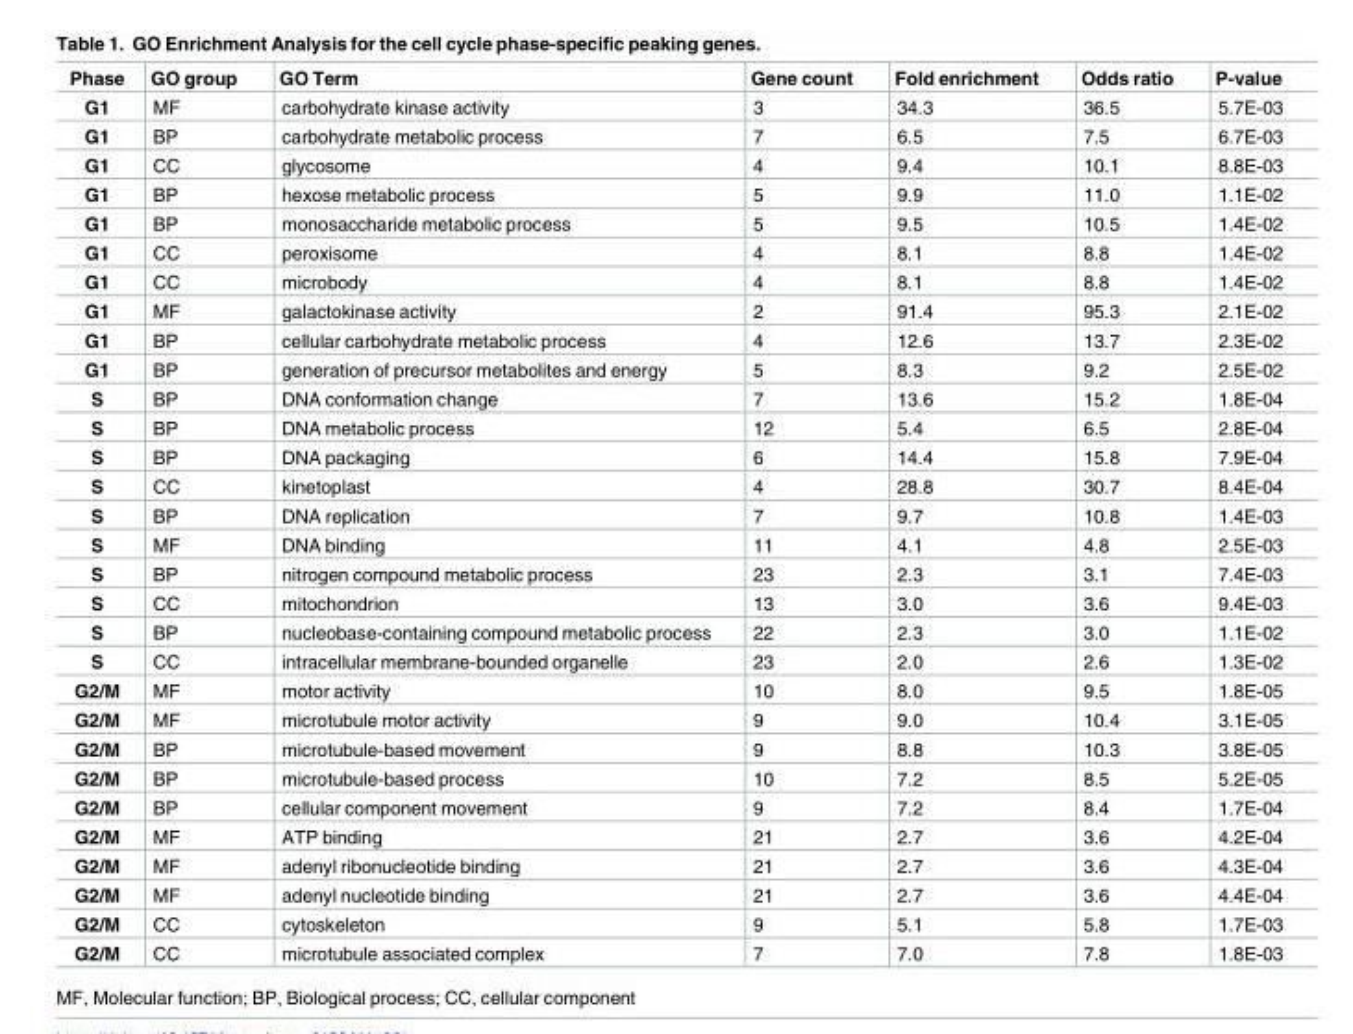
<table><thead><tr><td>Phase</td><td>GO group</td><td>GO Term</td><td>Gene count</td><td>Fold enrichment</td><td>Odds ratio</td><td>P-value</td></tr></thead><tbody><tr><td>G1</td><td>MF</td><td>carbohydrate kinase activity</td><td>3</td><td>34.3</td><td>36.5</td><td>5.7E-03</td></tr><tr><td>G1</td><td>BP</td><td>carbohydrate metabolic process</td><td>7</td><td>6.5</td><td>7.5</td><td>6.7E-03</td></tr><tr><td>G1</td><td>CC</td><td>glycosome</td><td>4</td><td>9.4</td><td>10.1</td><td>8.8E-03</td></tr><tr><td>G1</td><td>BP</td><td>hexose metabolic process</td><td>5</td><td>9.9</td><td>11.0</td><td>1.1E-02</td></tr><tr><td>G1</td><td>BP</td><td>monosaccharide metabolic process</td><td>5</td><td>9.5</td><td>10.5</td><td>1.4E-02</td></tr><tr><td>G1</td><td>CC</td><td>peroxisome</td><td>4</td><td>8.1</td><td>8.8</td><td>1.4E-02</td></tr><tr><td>G1</td><td>CC</td><td>microbody</td><td>4</td><td>8.1</td><td>8.8</td><td>1.4E-02</td></tr><tr><td>G1</td><td>MF</td><td>galactokinase activity</td><td>2</td><td>91.4</td><td>95.3</td><td>2.1E-02</td></tr><tr><td>G1</td><td>BP</td><td>cellular carbohydrate metabolic process</td><td>4</td><td>12.6</td><td>13.7</td><td>2.3E-02</td></tr><tr><td>G1</td><td>BP</td><td>generation of precursor metabolites and energy</td><td>5</td><td>8.3</td><td>9.2</td><td>2.5E-02</td></tr><tr><td>S</td><td>BP</td><td>DNA conformation change</td><td>7</td><td>13.6</td><td>15.2</td><td>1.8E-04</td></tr><tr><td>S</td><td>BP</td><td>DNA metabolic process</td><td>12</td><td>5.4</td><td>6.5</td><td>2.8E-04</td></tr><tr><td>S</td><td>BP</td><td>DNA packaging</td><td>6</td><td>14.4</td><td>15.8</td><td>7.9E-04</td></tr><tr><td>S</td><td>CC</td><td>kinetoplast</td><td>4</td><td>28.8</td><td>30.7</td><td>8.4E-04</td></tr><tr><td>S</td><td>BP</td><td>DNA replication</td><td>7</td><td>9.7</td><td>10.8</td><td>1.4E-03</td></tr><tr><td>S</td><td>MF</td><td>DNA binding</td><td>11</td><td>4.1</td><td>4.8</td><td>2.5E-03</td></tr><tr><td>S</td><td>BP</td><td>nitrogen compound metabolic process</td><td>23</td><td>2.3</td><td>3.1</td><td>7.4E-03</td></tr><tr><td>S</td><td>CC</td><td>mitochondrion</td><td>13</td><td>3.0</td><td>3.6</td><td>9.4E-03</td></tr><tr><td>S</td><td>BP</td><td>nucleobase-containing compound metabolic process</td><td>22</td><td>2.3</td><td>3.0</td><td>1.1E-02</td></tr><tr><td>S</td><td>CC</td><td>intracellular membrane-bounded organelle</td><td>23</td><td>2.0</td><td>2.6</td><td>1.3E-02</td></tr><tr><td>G2/M</td><td>MF</td><td>motor activity</td><td>10</td><td>8.0</td><td>9.5</td><td>1.8E-05</td></tr><tr><td>G2/M</td><td>MF</td><td>microtubule motor activity</td><td>9</td><td>9.0</td><td>10.4</td><td>3.1E-05</td></tr><tr><td>G2/M</td><td>BP</td><td>microtubule-based movement</td><td>9</td><td>8.8</td><td>10.3</td><td>3.8E-05</td></tr><tr><td>G2/M</td><td>BP</td><td>microtubule-based process</td><td>10</td><td>7.2</td><td>8.5</td><td>5.2E-05</td></tr><tr><td>G2/M</td><td>BP</td><td>cellular component movement</td><td>9</td><td>7.2</td><td>8.4</td><td>1.7E-04</td></tr><tr><td>G2/M</td><td>MF</td><td>ATP binding</td><td>21</td><td>2.7</td><td>3.6</td><td>4.2E-04</td></tr><tr><td>G2/M</td><td>MF</td><td>adenyl ribonucleotide binding</td><td>21</td><td>2.7</td><td>3.6</td><td>4.3E-04</td></tr><tr><td>G2/M</td><td>MF</td><td>adenyl nucleotide binding</td><td>21</td><td>2.7</td><td>3.6</td><td>4.4E-04</td></tr><tr><td>G2/M</td><td>CC</td><td>cytoskeleton</td><td>9</td><td>5.1</td><td>5.8</td><td>1.7E-03</td></tr><tr><td>G2/M</td><td>CC</td><td>microtubule associated complex</td><td>7</td><td>7.0</td><td>7.8</td><td>1.8E-03</td></tr></tbody></table>